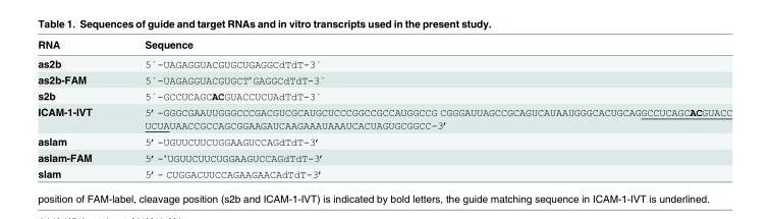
<table><thead><tr><td>RNA</td><td>Sequence</td></tr></thead><tbody><tr><td>as2b</td><td>5´-UAGAGGUACGUGCUGAGGCdTdT-3´</td></tr><tr><td>as2b-FAM</td><td>5´-UAGAGGUACGUGCT*GAGGCdTdT-3´</td></tr><tr><td>s2b</td><td>5´-GCCUCAGCACGUACCUCUAdTdT-3´</td></tr><tr><td>ICAM-1-IVT</td><td>5’-GGGCGAAUUGGGCCCGACGUCGCAUGCUCCCGGCCGCCAUGGCCG CGGGAUUAGCCGCAGUCAUAAUGGGCACUGCAGGCCUCAGCACGUACC UCUAUAACCGCCAGCGGAAGAUCAAGAAAUAAAUCACUAGUGCGGCC-3’</td></tr><tr><td>aslam</td><td>5’-UGUUCUUCUGGAAGUCCAGdTdT-3’</td></tr><tr><td>aslam-FAM</td><td>5’-*UGUUCUUCUGGAAGUCCAGdTdT-3’</td></tr><tr><td>slam</td><td>5’- CUGGACUUCCAGAAGAACAdTdT-3’</td></tr></tbody></table>